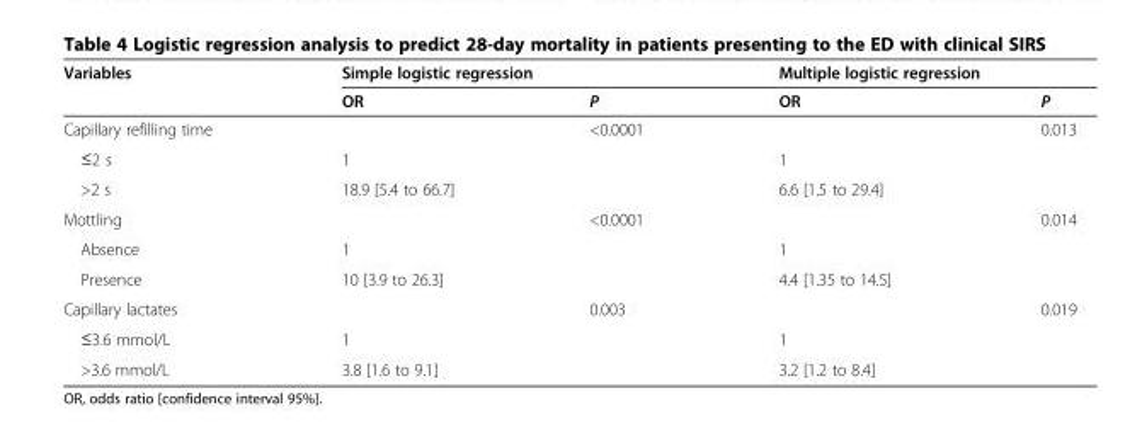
<table><thead><tr><td rowspan="2">Variables</td><td colspan="2">Simple logistic regression</td><td colspan="2">Multiple logistic regression</td></tr><tr><td>OR</td><td>P</td><td>OR</td><td>P</td></tr></thead><tbody><tr><td>Capillary refilling time</td><td></td><td>&lt;0.0001</td><td></td><td>0.013</td></tr><tr><td>≤2 s</td><td>1</td><td></td><td>1</td><td></td></tr><tr><td>&gt;2 s</td><td>18.9 [5.4 to 66.7]</td><td></td><td>6.6 [1.5 to 29.4]</td><td></td></tr><tr><td>Mottling</td><td></td><td>&lt;0.0001</td><td></td><td>0.014</td></tr><tr><td>Absence</td><td>1</td><td></td><td>1</td><td></td></tr><tr><td>Presence</td><td>10 [3.9 to 26.3]</td><td></td><td>4.4 [1.35 to 14.5]</td><td></td></tr><tr><td>Capillary lactates</td><td></td><td>0.003</td><td></td><td>0.019</td></tr><tr><td>≤3.6 mmol/L</td><td>1</td><td></td><td>1</td><td></td></tr><tr><td>&gt;3.6 mmol/L</td><td>3.8 [1.6 to 9.1]</td><td></td><td>3.2 [1.2 to 8.4]</td><td></td></tr></tbody></table>